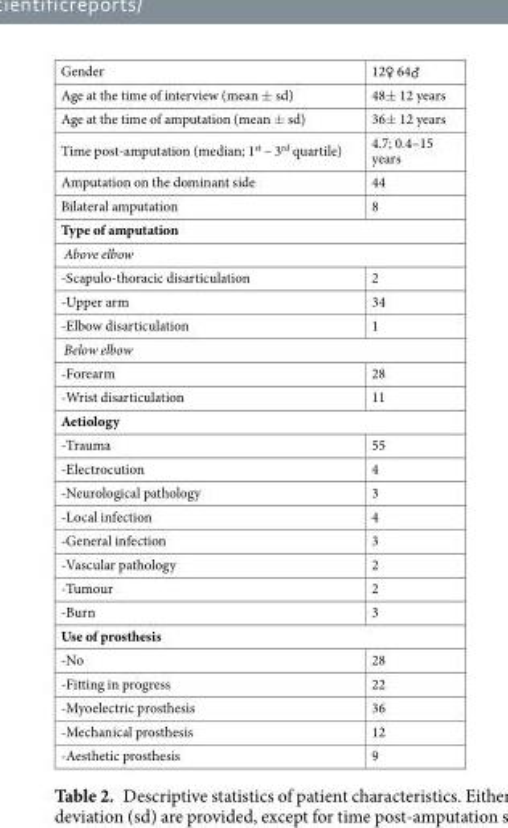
<table><tbody><tr><td>Gender</td><td>12♀ 64♂</td></tr><tr><td>Age at the time of interview (mean ± sd)</td><td>48± 12 years</td></tr><tr><td>Age at the time of amputation (mean ± sd)</td><td>36± 12 years</td></tr><tr><td>Time post-amputation (median; 1<sup>st</sup> – 3<sup>rd</sup> quartile)</td><td>4.7; 0.4–15 years</td></tr><tr><td>Amputation on the dominant side</td><td>44</td></tr><tr><td>Bilateral amputation</td><td>8</td></tr><tr><td colspan="2">Type of amputation</td></tr><tr><td colspan="2">Above elbow</td></tr><tr><td>-Scapulo-thoracic disarticulation</td><td>2</td></tr><tr><td>-Upper arm</td><td>34</td></tr><tr><td>-Elbow disarticulation</td><td>1</td></tr><tr><td colspan="2">Below elbow</td></tr><tr><td>-Forearm</td><td>28</td></tr><tr><td>-Wrist disarticulation</td><td>11</td></tr><tr><td colspan="2">Aetiology</td></tr><tr><td>-Trauma</td><td>55</td></tr><tr><td>-Electrocution</td><td>4</td></tr><tr><td>-Neurological pathology</td><td>3</td></tr><tr><td>-Local infection</td><td>4</td></tr><tr><td>-General infection</td><td>3</td></tr><tr><td>-Vascular pathology</td><td>2</td></tr><tr><td>-Tumour</td><td>2</td></tr><tr><td>-Burn</td><td>3</td></tr><tr><td colspan="2">Use of prosthesis</td></tr><tr><td>-No</td><td>28</td></tr><tr><td>-Fitting in progress</td><td>22</td></tr><tr><td>-Myoelectric prosthesis</td><td>36</td></tr><tr><td>-Mechanical prosthesis</td><td>12</td></tr><tr><td>-Aesthetic prosthesis</td><td>9</td></tr></tbody></table>